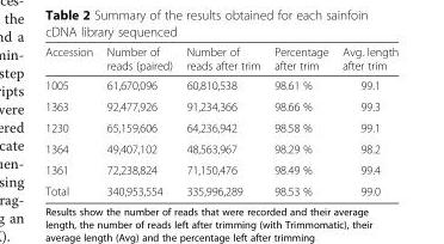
<table><thead><tr><td>Accession</td><td>Number of reads (paired)</td><td>Number of reads after trim</td><td>Percentage after trim</td><td>Avg. length after trim</td></tr></thead><tbody><tr><td>1005</td><td>61,670,096</td><td>60,810,538</td><td>98.61 %</td><td>99.1</td></tr><tr><td>1363</td><td>92,477,926</td><td>91,234,366</td><td>98.66 %</td><td>99.3</td></tr><tr><td>1230</td><td>65,159,606</td><td>64,236,942</td><td>98.58 %</td><td>99.1</td></tr><tr><td>1364</td><td>49,407,102</td><td>48,563,967</td><td>98.29 %</td><td>98.2</td></tr><tr><td>1361</td><td>72,238,824</td><td>71,150,476</td><td>98.49 %</td><td>99.4</td></tr><tr><td>Total</td><td>340,953,554</td><td>335,996,289</td><td>98.53 %</td><td>99.0</td></tr></tbody></table>